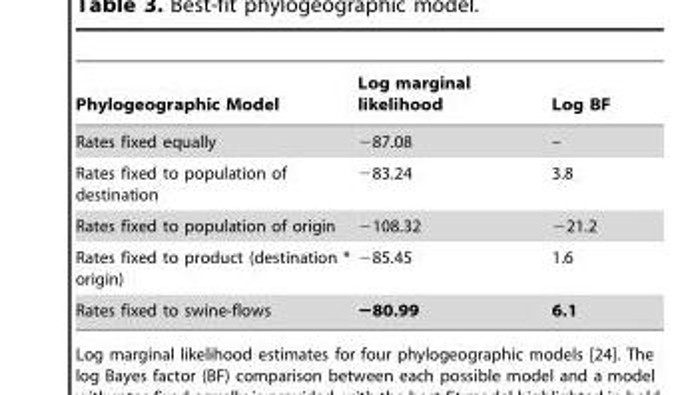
<table><thead><tr><td>Phylogeographic Model</td><td>Log marginal likelihood</td><td>Log BF</td></tr></thead><tbody><tr><td>Rates fixed equally</td><td>−87.08</td><td>–</td></tr><tr><td>Rates fixed to population of destination</td><td>−83.24</td><td>3.8</td></tr><tr><td>Rates fixed to population of origin</td><td>−108.32</td><td>−21.2</td></tr><tr><td>Rates fixed to product (destination * origin)</td><td>−85.45</td><td>1.6</td></tr><tr><td>Rates fixed to swine-flows</td><td>−80.99</td><td>6.1</td></tr></tbody></table>